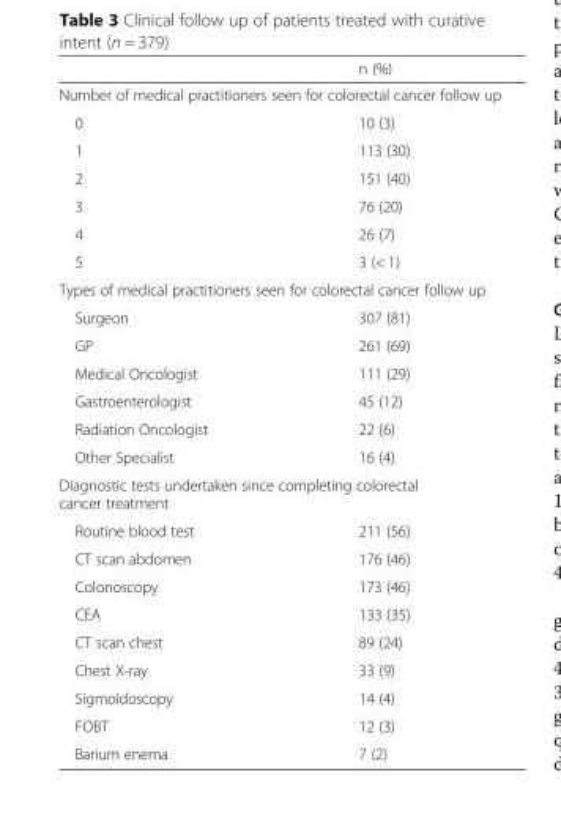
<table><thead><tr><td></td><td>n (%)</td></tr></thead><tbody><tr><td colspan="2">Number of medical practitioners seen for colorectal cancer follow up</td></tr><tr><td>0</td><td>10 (3)</td></tr><tr><td>1</td><td>113 (30)</td></tr><tr><td>2</td><td>151 (40)</td></tr><tr><td>3</td><td>76 (20)</td></tr><tr><td>4</td><td>26 (7)</td></tr><tr><td>5</td><td>3 (&lt; 1)</td></tr><tr><td colspan="2">Types of medical practitioners seen for colorectal cancer follow up</td></tr><tr><td>Surgeon</td><td>307 (81)</td></tr><tr><td>GP</td><td>261 (69)</td></tr><tr><td>Medical Oncologist</td><td>111 (29)</td></tr><tr><td>Gastroenterologist</td><td>45 (12)</td></tr><tr><td>Radiation Oncologist</td><td>22 (6)</td></tr><tr><td>Other Specialist</td><td>16 (4)</td></tr><tr><td colspan="2">Diagnostic tests undertaken since completing colorectal cancer treatment</td></tr><tr><td>Routine blood test</td><td>211 (56)</td></tr><tr><td>CT scan abdomen</td><td>176 (46)</td></tr><tr><td>Colonoscopy</td><td>173 (46)</td></tr><tr><td>CEA</td><td>133 (35)</td></tr><tr><td>CT scan chest</td><td>89 (24)</td></tr><tr><td>Chest X-ray</td><td>33 (9)</td></tr><tr><td>Sigmoidoscopy</td><td>14 (4)</td></tr><tr><td>FOBT</td><td>12 (3)</td></tr><tr><td>Barium enema</td><td>7 (2)</td></tr></tbody></table>